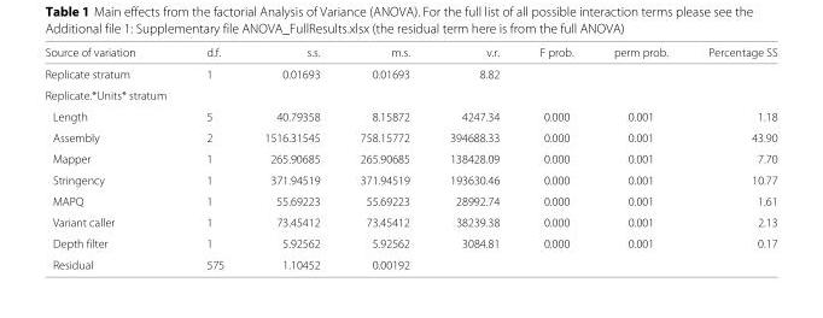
<table><thead><tr><td>Source of variation</td><td>d.f.</td><td>s.s.</td><td>m.s.</td><td>v.r.</td><td>F prob.</td><td>perm prob.</td><td>Percentage SS</td></tr></thead><tbody><tr><td>Replicate stratum</td><td>1</td><td>0.01693</td><td>0.01693</td><td>8.82</td><td></td><td></td><td></td></tr><tr><td colspan="8">Replicate.*Units* stratum</td></tr><tr><td>Length</td><td>5</td><td>40.79358</td><td>8.15872</td><td>4247.34</td><td>0.000</td><td>0.001</td><td>1.18</td></tr><tr><td>Assembly</td><td>2</td><td>1516.31545</td><td>758.15772</td><td>394688.33</td><td>0.000</td><td>0.001</td><td>43.90</td></tr><tr><td>Mapper</td><td>1</td><td>265.90685</td><td>265.90685</td><td>138428.09</td><td>0.000</td><td>0.001</td><td>7.70</td></tr><tr><td>Stringency</td><td>1</td><td>371.94519</td><td>371.94519</td><td>193630.46</td><td>0.000</td><td>0.001</td><td>10.77</td></tr><tr><td>MAPQ</td><td>1</td><td>55.69223</td><td>55.69223</td><td>28992.74</td><td>0.000</td><td>0.001</td><td>1.61</td></tr><tr><td>Variant caller</td><td>1</td><td>73.45412</td><td>73.45412</td><td>38239.38</td><td>0.000</td><td>0.001</td><td>2.13</td></tr><tr><td>Depth filter</td><td>1</td><td>5.92562</td><td>5.92562</td><td>3084.81</td><td>0.000</td><td>0.001</td><td>0.17</td></tr><tr><td>Residual</td><td>575</td><td>1.10452</td><td>0.00192</td><td></td><td></td><td></td><td></td></tr></tbody></table>